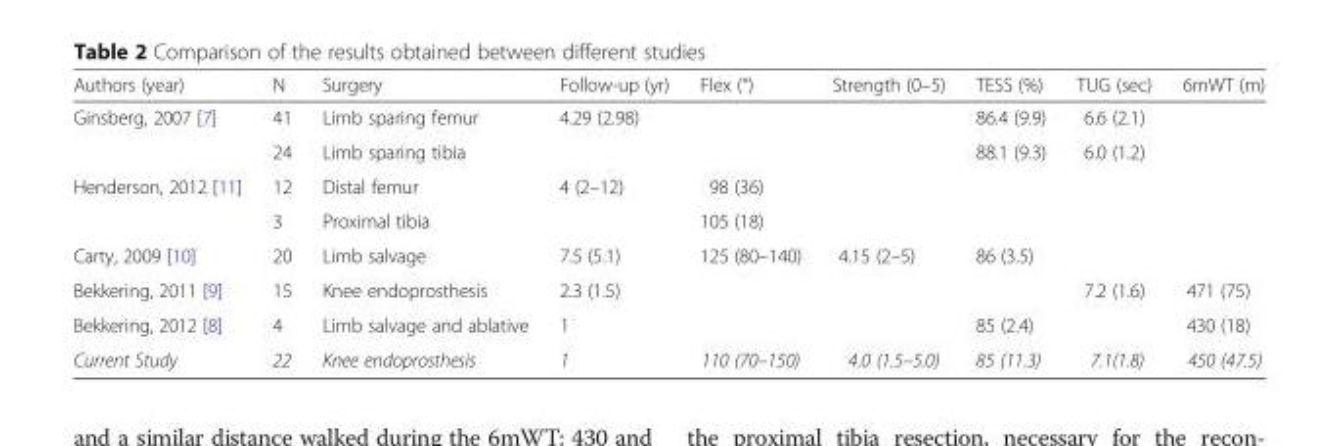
<table><thead><tr><td>Authors (year)</td><td>N</td><td>Surgery</td><td>Follow-up (yr)</td><td>Flex (°)</td><td>Strength (0–5)</td><td>TESS (%)</td><td>TUG (sec)</td><td>6mWT (m)</td></tr></thead><tbody><tr><td rowspan="2">Ginsberg, 2007 [7]</td><td>41</td><td>Limb sparing femur</td><td rowspan="2">4.29 (2.98)</td><td></td><td></td><td>86.4 (9.9)</td><td>6.6 (2.1)</td><td></td></tr><tr><td>24</td><td>Limb sparing tibia</td><td></td><td></td><td>88.1 (9.3)</td><td>6.0 (1.2)</td><td></td></tr><tr><td rowspan="2">Henderson, 2012 [11]</td><td>12</td><td>Distal femur</td><td rowspan="2">4 (2–12)</td><td>98 (36)</td><td></td><td></td><td></td><td></td></tr><tr><td>3</td><td>Proximal tibia</td><td>105 (18)</td><td></td><td></td><td></td><td></td></tr><tr><td>Carty, 2009 [10]</td><td>20</td><td>Limb salvage</td><td>7.5 (5.1)</td><td>125 (80–140)</td><td>4.15 (2–5)</td><td>86 (3.5)</td><td></td><td></td></tr><tr><td>Bekkering, 2011 [9]</td><td>15</td><td>Knee endoprosthesis</td><td>2.3 (1.5)</td><td></td><td></td><td></td><td>7.2 (1.6)</td><td>471 (75)</td></tr><tr><td>Bekkering, 2012 [8]</td><td>4</td><td>Limb salvage and ablative</td><td>1</td><td></td><td></td><td>85 (2.4)</td><td></td><td>430 (18)</td></tr><tr><td>Current Study</td><td>22</td><td>Knee endoprosthesis</td><td>1</td><td>110 (70–150)</td><td>4.0 (1.5–5.0)</td><td>85 (11.3)</td><td>7.1(1.8)</td><td>450 (47.5)</td></tr></tbody></table>